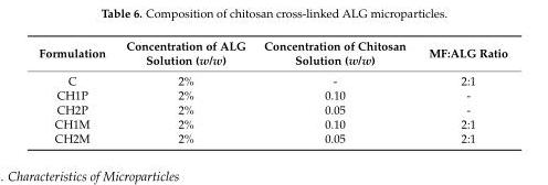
<table><thead><tr><td>Formulation</td><td>Concentration of ALG Solution (w/w)</td><td>Concentration of Chitosan Solution (w/w)</td><td>MF:ALG Ratio</td></tr></thead><tbody><tr><td>C</td><td>2%</td><td>-</td><td>2:1</td></tr><tr><td>CH1P</td><td>2%</td><td>0.10</td><td>-</td></tr><tr><td>CH2P</td><td>2%</td><td>0.05</td><td>-</td></tr><tr><td>CH1M</td><td>2%</td><td>0.10</td><td>2:1</td></tr><tr><td>CH2M</td><td>2%</td><td>0.05</td><td>2:1</td></tr></tbody></table>